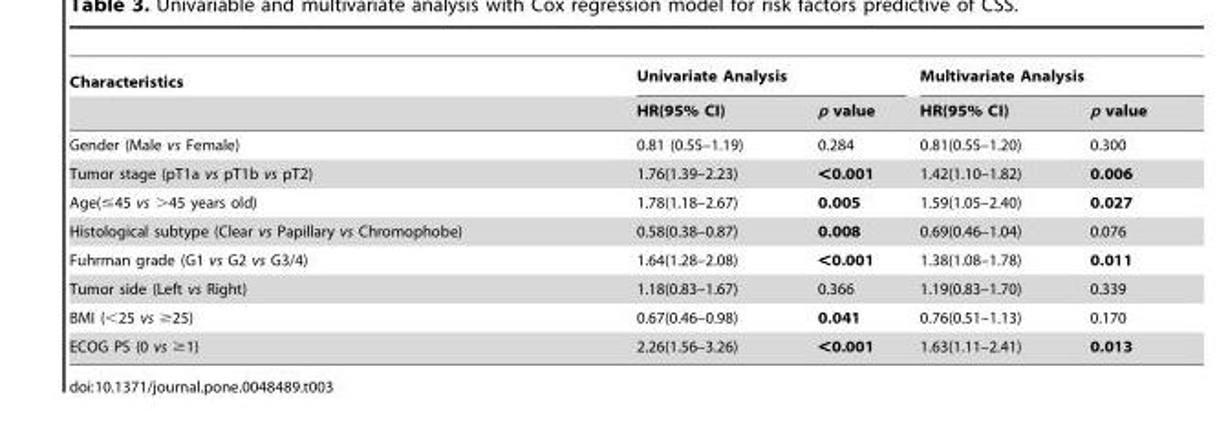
<table><thead><tr><td rowspan="2">Characteristics</td><td colspan="2">Univariate Analysis</td><td colspan="2">Multivariate Analysis</td></tr><tr><td>HR(95% CI)</td><td>p value</td><td>HR(95% CI)</td><td>p value</td></tr></thead><tbody><tr><td>Gender (Male vs Female)</td><td>0.81 (0.55–1.19)</td><td>0.284</td><td>0.81(0.55–1.20)</td><td>0.300</td></tr><tr><td>Tumor stage (pT1a vs pT1b vs pT2)</td><td>1.76(1.39–2.23)</td><td>&lt;0.001</td><td>1.42(1.10–1.82)</td><td>0.006</td></tr><tr><td>Age(≤45 vs &gt;45 years old)</td><td>1.78(1.18–2.67)</td><td>0.005</td><td>1.59(1.05–2.40)</td><td>0.027</td></tr><tr><td>Histological subtype (Clear vs Papillary vs Chromophobe)</td><td>0.58(0.38–0.87)</td><td>0.008</td><td>0.69(0.46–1.04)</td><td>0.076</td></tr><tr><td>Fuhrman grade (G1 vs G2 vs G3/4)</td><td>1.64(1.28–2.08)</td><td>&lt;0.001</td><td>1.38(1.08–1.78)</td><td>0.011</td></tr><tr><td>Tumor side (Left vs Right)</td><td>1.18(0.83–1.67)</td><td>0.366</td><td>1.19(0.83–1.70)</td><td>0.339</td></tr><tr><td>BMI (&lt;25 vs ≥25)</td><td>0.67(0.46–0.98)</td><td>0.041</td><td>0.76(0.51–1.13)</td><td>0.170</td></tr><tr><td>ECOG PS (0 vs ≥1)</td><td>2.26(1.56–3.26)</td><td>&lt;0.001</td><td>1.63(1.11–2.41)</td><td>0.013</td></tr></tbody></table>